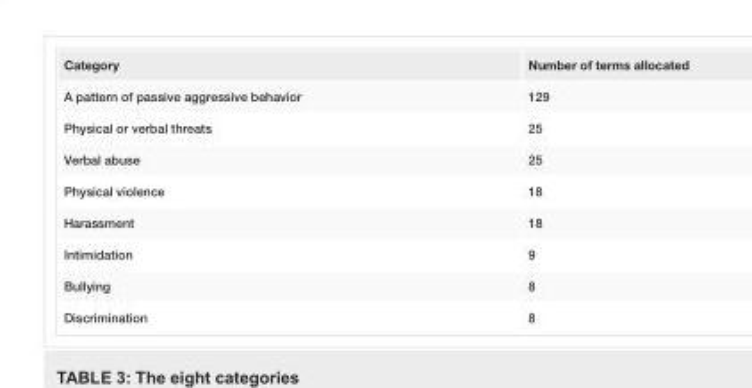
<table><tbody><tr><td>Category</td><td>Number of terms allocated</td></tr><tr><td>A pattern of passive aggressive behavior</td><td>129</td></tr><tr><td>Physical or verbal threats</td><td>25</td></tr><tr><td>Verbal abuse</td><td>25</td></tr><tr><td>Physical violence</td><td>18</td></tr><tr><td>Harassment</td><td>18</td></tr><tr><td>Intimidation</td><td>9</td></tr><tr><td>Bullying</td><td>8</td></tr><tr><td>Discrimination</td><td>8</td></tr></tbody></table>